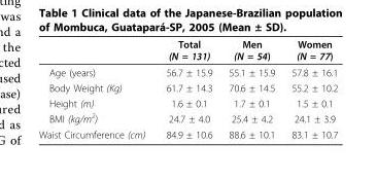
<table><thead><tr><td></td><td>Total (N = 131)</td><td>Men (N = 54)</td><td>Women (N = 77)</td></tr></thead><tbody><tr><td>Age (years)</td><td>56.7 ± 15.9</td><td>55.1 ± 15.9</td><td>57.8 ± 16.1</td></tr><tr><td>Body Weight (Kg)</td><td>61.7 ± 14.3</td><td>70.6 ± 14.5</td><td>55.2 ± 10.2</td></tr><tr><td>Height (m)</td><td>1.6 ± 0.1</td><td>1.7 ± 0.1</td><td>1.5 ± 0.1</td></tr><tr><td>BMI (kg/m<sup>2</sup>)</td><td>24.7 ± 4.0</td><td>25.4 ± 4.2</td><td>24.1 ± 3.9</td></tr><tr><td>Waist Circumference (cm)</td><td>84.9 ± 10.6</td><td>88.6 ± 10.1</td><td>83.1 ± 10.7</td></tr></tbody></table>